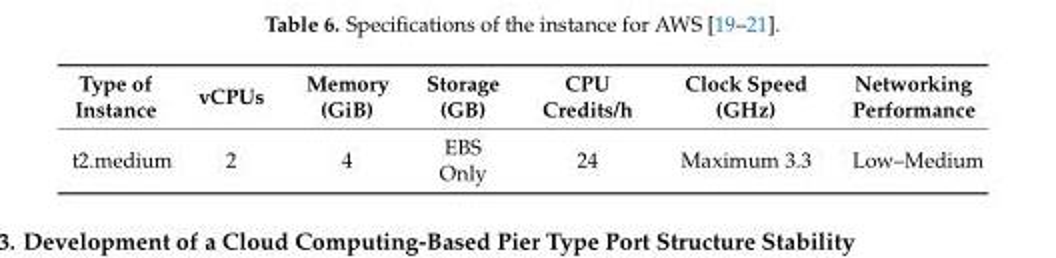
<table><thead><tr><td>Type of Instance</td><td>vCPUs</td><td>Memory (GiB)</td><td>Storage (GB)</td><td>CPU Credits/h</td><td>Clock Speed (GHz)</td><td>Networking Performance</td></tr></thead><tbody><tr><td>t2.medium</td><td>2</td><td>4</td><td>EBS Only</td><td>24</td><td>Maximum 3.3</td><td>Low–Medium</td></tr></tbody></table>